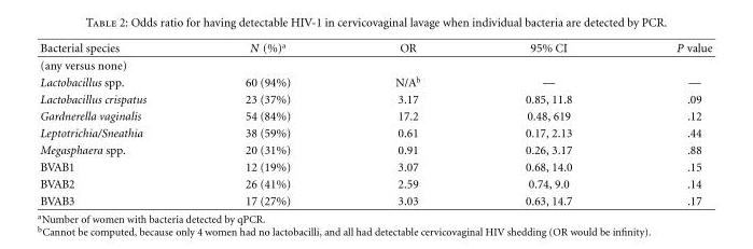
<table><thead><tr><td>Bacterial species</td><td>N (%)<sup>a</sup></td><td>OR</td><td>95% CI</td><td>P value</td></tr></thead><tbody><tr><td colspan="5">(any versus none)</td></tr><tr><td>Lactobacillus spp.</td><td>60 (94%)</td><td>N/A<sup>b</sup></td><td>—</td><td>—</td></tr><tr><td>Lactobacillus crispatus</td><td>23 (37%)</td><td>3.17</td><td>0.85, 11.8</td><td>.09</td></tr><tr><td>Gardnerella vaginalis</td><td>54 (84%)</td><td>17.2</td><td>0.48, 619</td><td>.12</td></tr><tr><td>Leptotrichia/Sneathia</td><td>38 (59%)</td><td>0.61</td><td>0.17, 2.13</td><td>.44</td></tr><tr><td>Megasphaera spp.</td><td>20 (31%)</td><td>0.91</td><td>0.26, 3.17</td><td>.88</td></tr><tr><td>BVAB1</td><td>12 (19%)</td><td>3.07</td><td>0.68, 14.0</td><td>.15</td></tr><tr><td>BVAB2</td><td>26 (41%)</td><td>2.59</td><td>0.74, 9.0</td><td>.14</td></tr><tr><td>BVAB3</td><td>17 (27%)</td><td>3.03</td><td>0.63, 14.7</td><td>.17</td></tr></tbody></table>